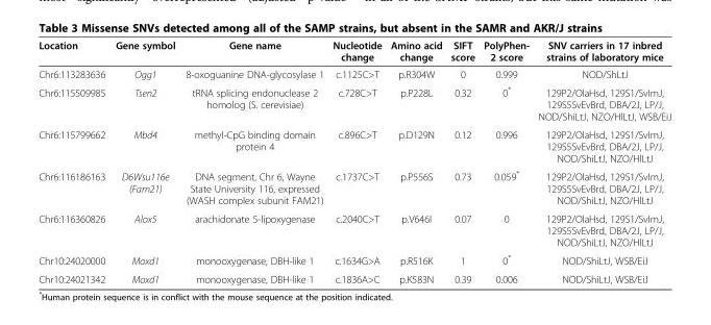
<table><thead><tr><td>Location</td><td>Gene symbol</td><td>Gene name</td><td>Nucleotide change</td><td>Amino acid change</td><td>SIFT score</td><td>PolyPhen- 2 score</td><td>SNV carriers in 17 inbred strains of laboratory mice</td></tr></thead><tbody><tr><td>Chr6:113283636</td><td>Ogg1</td><td>8-oxoguanine DNA-glycosylase 1</td><td>c.1125C&gt;T</td><td>p.R304W</td><td>0</td><td>0.999</td><td>NOD/ShLtJ</td></tr><tr><td>Chr6:115509985</td><td>Tsen2</td><td>tRNA splicing endonuclease 2 homolog (S. cerevisiae)</td><td>c.728C&gt;T</td><td>p.P228L</td><td>0.32</td><td>0*</td><td>129P2/OlaHsd, 129S1/SvImJ, 129S5SvEvBrd, DBA/2J, LP/J, NOD/ShiLtJ, NZO/HlLtJ, WSB/EiJ</td></tr><tr><td>Chr6:115799662</td><td>Mbd4</td><td>methyl-CpG binding domain protein 4</td><td>c.896C&gt;T</td><td>p.D129N</td><td>0.12</td><td>0.996</td><td>129P2/OlaHsd, 129S1/SvImJ, 129S5SvEvBrd, DBA/2J, LP/J, NOD/ShiLtJ, NZO/HlLtJ</td></tr><tr><td>Chr6:116186163</td><td>D6Wsu116e (Fam21)</td><td>DNA segment, Chr 6, Wayne State University 116, expressed (WASH complex subunit FAM21)</td><td>c.1737C&gt;T</td><td>p.P556S</td><td>0.73</td><td>0.059*</td><td>129P2/OlaHsd, 129S1/SvImJ, 129S5SvEvBrd, DBA/2J, LP/J, NOD/ShiLtJ, NZO/HlLtJ</td></tr><tr><td>Chr6:116360826</td><td>Alox5</td><td>arachidonate 5-lipoxygenase</td><td>c.2040C&gt;T</td><td>p.V646I</td><td>0.07</td><td>0</td><td>129P2/OlaHsd, 129S1/SvImJ, 129S5SvEvBrd, DBA/2J, LP/J, NOD/ShiLtJ, NZO/HlLtJ</td></tr><tr><td>Chr10:24020000</td><td>Moxd1</td><td>monooxygenase, DBH-like 1</td><td>c.1634G&gt;A</td><td>p.R516K</td><td>1</td><td>0*</td><td>NOD/ShiLtJ, WSB/EiJ</td></tr><tr><td>Chr10:24021342</td><td>Moxd1</td><td>monooxygenase, DBH-like 1</td><td>c.1836A&gt;C</td><td>p.K583N</td><td>0.39</td><td>0.006</td><td>NOD/ShiLtJ, WSB/EiJ</td></tr></tbody></table>